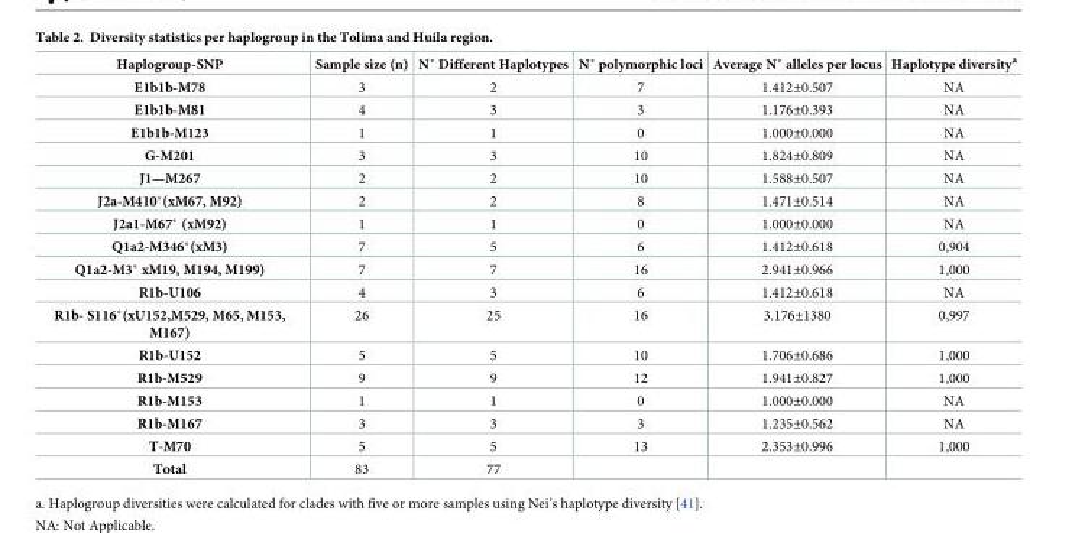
<table><thead><tr><td>Haplogroup-SNP</td><td>Sample size (n)</td><td>N˚ Different Haplotypes</td><td>N˚ polymorphic loci</td><td>Average N˚ alleles per locus</td><td>Haplotype diversity<sup>a</sup></td></tr></thead><tbody><tr><td>E1b1b-M78</td><td>3</td><td>2</td><td>7</td><td>1.412±0.507</td><td>NA</td></tr><tr><td>E1b1b-M81</td><td>4</td><td>3</td><td>3</td><td>1.176±0.393</td><td>NA</td></tr><tr><td>E1b1b-M123</td><td>1</td><td>1</td><td>0</td><td>1.000±0.000</td><td>NA</td></tr><tr><td>G-M201</td><td>3</td><td>3</td><td>10</td><td>1.824±0.809</td><td>NA</td></tr><tr><td>J1—M267</td><td>2</td><td>2</td><td>10</td><td>1.588±0.507</td><td>NA</td></tr><tr><td>J2a-M410*(xM67, M92)</td><td>2</td><td>2</td><td>8</td><td>1.471±0.514</td><td>NA</td></tr><tr><td>J2a1-M67* (xM92)</td><td>1</td><td>1</td><td>0</td><td>1.000±0.000</td><td>NA</td></tr><tr><td>Q1a2-M346*(xM3)</td><td>7</td><td>5</td><td>6</td><td>1.412±0.618</td><td>0,904</td></tr><tr><td>Q1a2-M3* xM19, M194, M199)</td><td>7</td><td>7</td><td>16</td><td>2.941±0.966</td><td>1,000</td></tr><tr><td>R1b-U106</td><td>4</td><td>3</td><td>6</td><td>1.412±0.618</td><td>NA</td></tr><tr><td>R1b- S116*(xU152,M529, M65, M153, M167)</td><td>26</td><td>25</td><td>16</td><td>3.176±1380</td><td>0,997</td></tr><tr><td>R1b-U152</td><td>5</td><td>5</td><td>10</td><td>1.706±0.686</td><td>1,000</td></tr><tr><td>R1b-M529</td><td>9</td><td>9</td><td>12</td><td>1.941±0.827</td><td>1,000</td></tr><tr><td>R1b-M153</td><td>1</td><td>1</td><td>0</td><td>1.000±0.000</td><td>NA</td></tr><tr><td>R1b-M167</td><td>3</td><td>3</td><td>3</td><td>1.235±0.562</td><td>NA</td></tr><tr><td>T-M70</td><td>5</td><td>5</td><td>13</td><td>2.353±0.996</td><td>1,000</td></tr><tr><td>Total</td><td>83</td><td>77</td><td></td><td></td><td></td></tr></tbody></table>